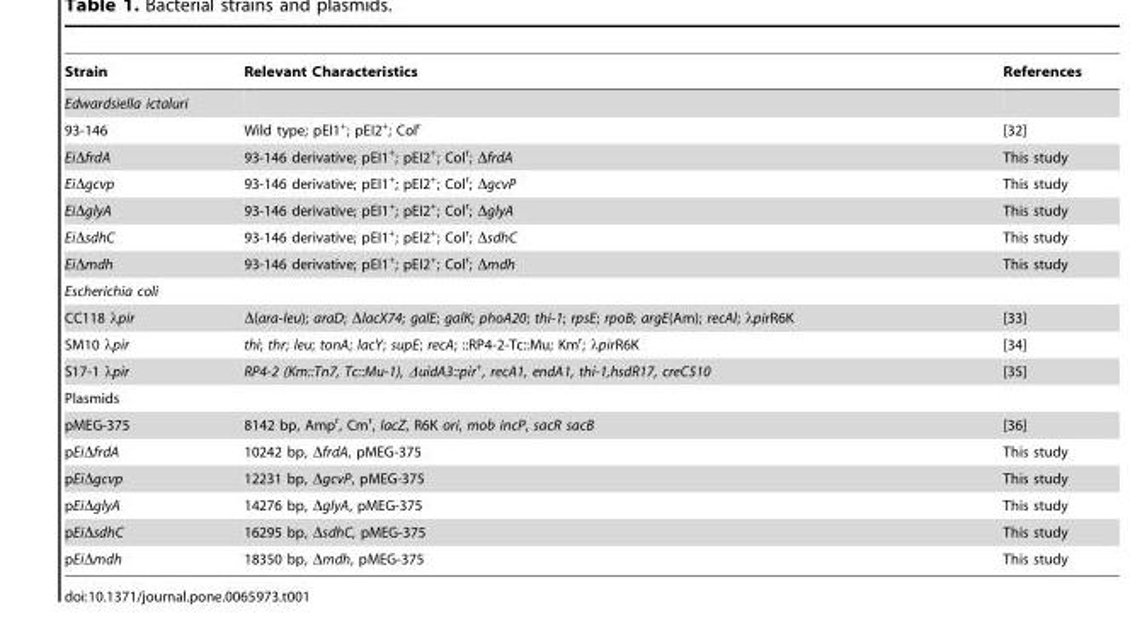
<table><thead><tr><td>Strain</td><td>Relevant Characteristics</td><td>References</td></tr></thead><tbody><tr><td colspan="3">Edwardsiella ictaluri</td></tr><tr><td>93-146</td><td>Wild type; pEI1<sup>+</sup>; pEI2<sup>+</sup>; Col<sup>r</sup></td><td>[32]</td></tr><tr><td>EiΔfrdA</td><td>93-146 derivative; pEI1<sup>+</sup>; pEI2<sup>+</sup>; Col<sup>r</sup>; ΔfrdA</td><td>This study</td></tr><tr><td>EiΔgcvp</td><td>93-146 derivative; pEI1<sup>+</sup>; pEI2<sup>+</sup>; Col<sup>r</sup>; ΔgcvP</td><td>This study</td></tr><tr><td>EiΔglyA</td><td>93-146 derivative; pEI1<sup>+</sup>; pEI2<sup>+</sup>; Col<sup>r</sup>; ΔglyA</td><td>This study</td></tr><tr><td>EiΔsdhC</td><td>93-146 derivative; pEI1<sup>+</sup>; pEI2<sup>+</sup>; Col<sup>r</sup>; ΔsdhC</td><td>This study</td></tr><tr><td>EiΔmdh</td><td>93-146 derivative; pEI1<sup>+</sup>; pEI2<sup>+</sup>; Col<sup>r</sup>; Δmdh</td><td>This study</td></tr><tr><td colspan="3">Escherichia coli</td></tr><tr><td>CC118 λpir</td><td>Δ(ara-leu); araD; ΔlacX74; galE; galK; phoA20; thi-1; rpsE; rpoB; argE(Am); recAl; λpirR6K</td><td>[33]</td></tr><tr><td>SM10 λpir</td><td>thi; thr; leu; tonA; lacY; supE; recA; ::RP4-2-Tc::Mu; Km<sup>r</sup>; λpirR6K</td><td>[34]</td></tr><tr><td>S17-1 λpir</td><td>RP4-2 (Km::Tn7, Tc::Mu-1), ΔuidA3::pir<sup>+</sup>, recA1, endA1, thi-1,hsdR17, creC510</td><td>[35]</td></tr><tr><td colspan="3">Plasmids</td></tr><tr><td>pMEG-375</td><td>8142 bp, Amp<sup>r</sup>, Cm<sup>r</sup>, lacZ, R6K ori, mob incP, sacR sacB</td><td>[36]</td></tr><tr><td>pEiΔfrdA</td><td>10242 bp, ΔfrdA, pMEG-375</td><td>This study</td></tr><tr><td>pEiΔgcvp</td><td>12231 bp, ΔgcvP, pMEG-375</td><td>This study</td></tr><tr><td>pEiΔglyA</td><td>14276 bp, ΔglyA, pMEG-375</td><td>This study</td></tr><tr><td>pEiΔsdhC</td><td>16295 bp, ΔsdhC, pMEG-375</td><td>This study</td></tr><tr><td>pEiΔmdh</td><td>18350 bp, Δmdh, pMEG-375</td><td>This study</td></tr></tbody></table>